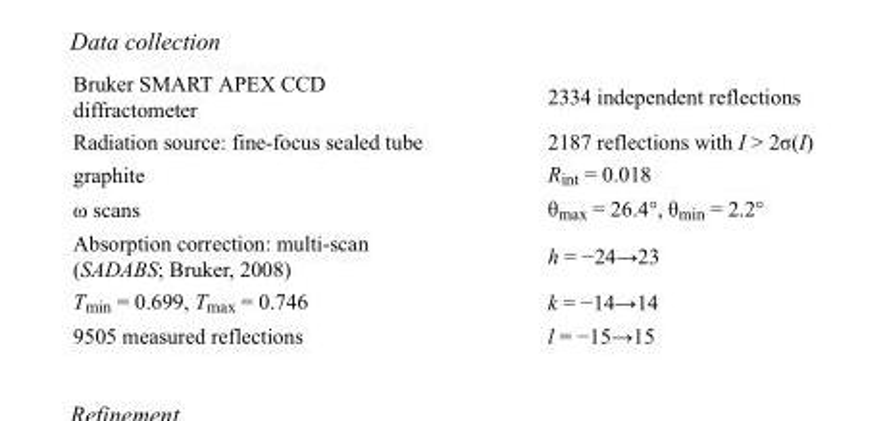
<table><tbody><tr><td>Bruker SMART APEX CCD diffractometer</td><td>2334 independent reflections</td></tr><tr><td>Radiation source: fine-focus sealed tube</td><td>2187 reflections with I &gt; 2σ(I)</td></tr><tr><td>graphite</td><td>R<sub>int</sub> = 0.018</td></tr><tr><td>ω scans</td><td>θ<sub>max</sub> = 26.4°, θ<sub>min</sub> = 2.2°</td></tr><tr><td>Absorption correction: multi-scan (SADABS; Bruker, 2008)</td><td>h = −24→23</td></tr><tr><td>T<sub>min</sub> = 0.699, T<sub>max</sub> = 0.746</td><td>k = −14→14</td></tr><tr><td>9505 measured reflections</td><td>l = −15→15</td></tr></tbody></table>